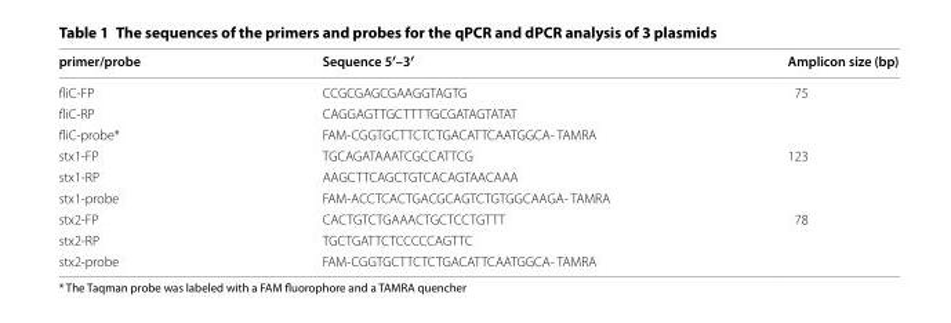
<table><thead><tr><td>primer/probe</td><td>Sequence 5′–3′</td><td>Amplicon size (bp)</td></tr></thead><tbody><tr><td>fliC-FP</td><td>CCGCGAGCGAAGGTAGTG</td><td rowspan="3">75</td></tr><tr><td>fliC-RP</td><td>CAGGAGTTGCTTTTGCGATAGTATAT</td></tr><tr><td>fliC-probe*</td><td>FAM-CGGTGCTTCTCTGACATTCAATGGCA- TAMRA</td></tr><tr><td>stx1-FP</td><td>TGCAGATAAATCGCCATTCG</td><td rowspan="3">123</td></tr><tr><td>stx1-RP</td><td>AAGCTTCAGCTGTCACAGTAACAAA</td></tr><tr><td>stx1-probe</td><td>FAM-ACCTCACTGACGCAGTCTGTGGCAAGA- TAMRA</td></tr><tr><td>stx2-FP</td><td>CACTGTCTGAAACTGCTCCTGTTT</td><td rowspan="3">78</td></tr><tr><td>stx2-RP</td><td>TGCTGATTCTCCCCCAGTTC</td></tr><tr><td>stx2-probe</td><td>FAM-CGGTGCTTCTCTGACATTCAATGGCA- TAMRA</td></tr></tbody></table>